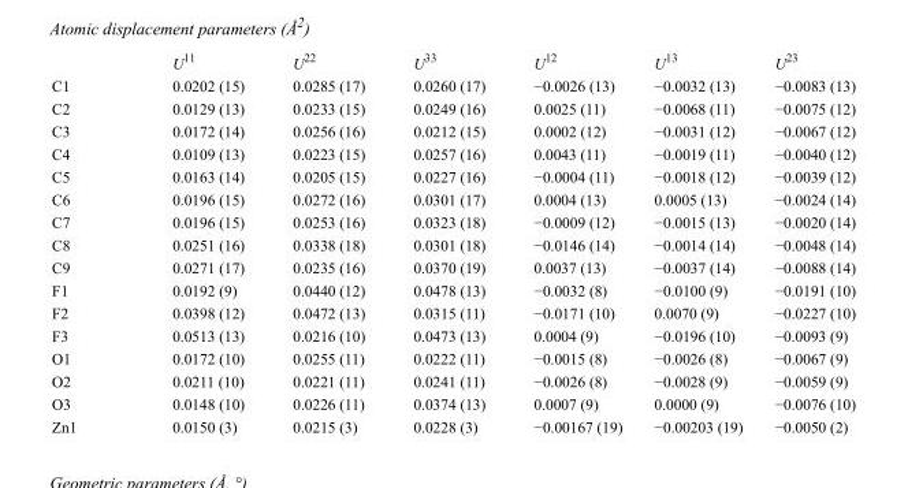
<table><thead><tr><td></td><td>U<sup>11</sup></td><td>U<sup>22</sup></td><td>U<sup>33</sup></td><td>U<sup>12</sup></td><td>U<sup>13</sup></td><td>U<sup>23</sup></td></tr></thead><tbody><tr><td>C1</td><td>0.0202 (15)</td><td>0.0285 (17)</td><td>0.0260 (17)</td><td>−0.0026 (13)</td><td>−0.0032 (13)</td><td>−0.0083 (13)</td></tr><tr><td>C2</td><td>0.0129 (13)</td><td>0.0233 (15)</td><td>0.0249 (16)</td><td>0.0025 (11)</td><td>−0.0068 (11)</td><td>−0.0075 (12)</td></tr><tr><td>C3</td><td>0.0172 (14)</td><td>0.0256 (16)</td><td>0.0212 (15)</td><td>0.0002 (12)</td><td>−0.0031 (12)</td><td>−0.0067 (12)</td></tr><tr><td>C4</td><td>0.0109 (13)</td><td>0.0223 (15)</td><td>0.0257 (16)</td><td>0.0043 (11)</td><td>−0.0019 (11)</td><td>−0.0040 (12)</td></tr><tr><td>C5</td><td>0.0163 (14)</td><td>0.0205 (15)</td><td>0.0227 (16)</td><td>−0.0004 (11)</td><td>−0.0018 (12)</td><td>−0.0039 (12)</td></tr><tr><td>C6</td><td>0.0196 (15)</td><td>0.0272 (16)</td><td>0.0301 (17)</td><td>0.0004 (13)</td><td>0.0005 (13)</td><td>−0.0024 (14)</td></tr><tr><td>C7</td><td>0.0196 (15)</td><td>0.0253 (16)</td><td>0.0323 (18)</td><td>−0.0009 (12)</td><td>−0.0015 (13)</td><td>−0.0020 (14)</td></tr><tr><td>C8</td><td>0.0251 (16)</td><td>0.0338 (18)</td><td>0.0301 (18)</td><td>−0.0146 (14)</td><td>−0.0014 (14)</td><td>−0.0048 (14)</td></tr><tr><td>C9</td><td>0.0271 (17)</td><td>0.0235 (16)</td><td>0.0370 (19)</td><td>0.0037 (13)</td><td>−0.0037 (14)</td><td>−0.0088 (14)</td></tr><tr><td>F1</td><td>0.0192 (9)</td><td>0.0440 (12)</td><td>0.0478 (13)</td><td>−0.0032 (8)</td><td>−0.0100 (9)</td><td>−0.0191 (10)</td></tr><tr><td>F2</td><td>0.0398 (12)</td><td>0.0472 (13)</td><td>0.0315 (11)</td><td>−0.0171 (10)</td><td>0.0070 (9)</td><td>−0.0227 (10)</td></tr><tr><td>F3</td><td>0.0513 (13)</td><td>0.0216 (10)</td><td>0.0473 (13)</td><td>0.0004 (9)</td><td>−0.0196 (10)</td><td>−0.0093 (9)</td></tr><tr><td>O1</td><td>0.0172 (10)</td><td>0.0255 (11)</td><td>0.0222 (11)</td><td>−0.0015 (8)</td><td>−0.0026 (8)</td><td>−0.0067 (9)</td></tr><tr><td>O2</td><td>0.0211 (10)</td><td>0.0221 (11)</td><td>0.0241 (11)</td><td>−0.0026 (8)</td><td>−0.0028 (9)</td><td>−0.0059 (9)</td></tr><tr><td>O3</td><td>0.0148 (10)</td><td>0.0226 (11)</td><td>0.0374 (13)</td><td>0.0007 (9)</td><td>0.0000 (9)</td><td>−0.0076 (10)</td></tr><tr><td>Zn1</td><td>0.0150 (3)</td><td>0.0215 (3)</td><td>0.0228 (3)</td><td>−0.00167 (19)</td><td>−0.00203 (19)</td><td>−0.0050 (2)</td></tr></tbody></table>